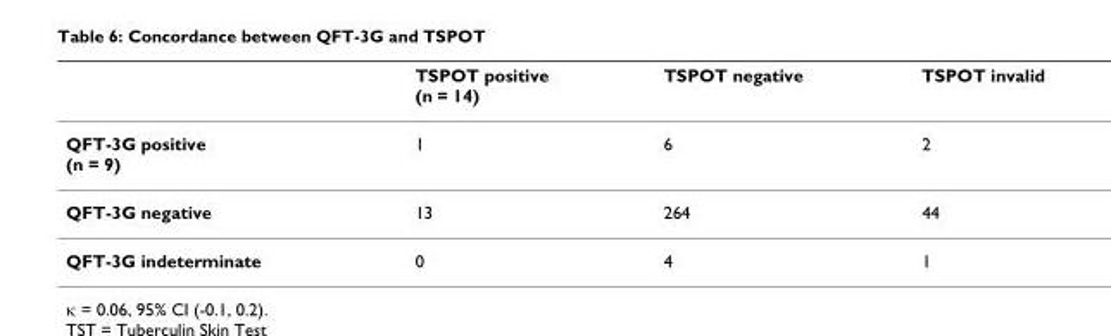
<table><thead><tr><td></td><td>TSPOT positive (n = 14)</td><td>TSPOT negative</td><td>TSPOT invalid</td></tr></thead><tbody><tr><td>QFT-3G positive (n = 9)</td><td>1</td><td>6</td><td>2</td></tr><tr><td>QFT-3G negative</td><td>13</td><td>264</td><td>44</td></tr><tr><td>QFT-3G indeterminate</td><td>0</td><td>4</td><td>1</td></tr></tbody></table>